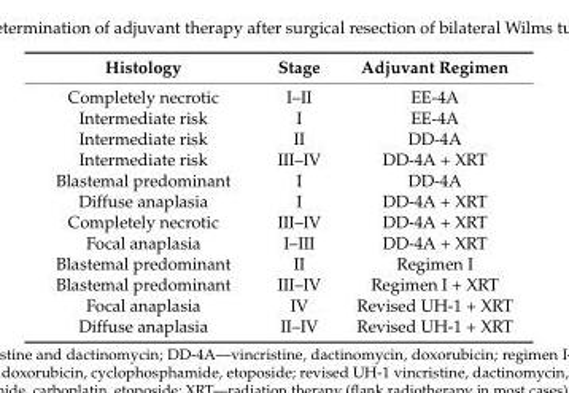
<table><thead><tr><td>Histology</td><td>Stage</td><td>Adjuvant Regimen</td></tr></thead><tbody><tr><td>Completely necrotic</td><td>I–II</td><td>EE-4A</td></tr><tr><td>Intermediate risk</td><td>I</td><td>EE-4A</td></tr><tr><td>Intermediate risk</td><td>II</td><td>DD-4A</td></tr><tr><td>Intermediate risk</td><td>III–IV</td><td>DD-4A + XRT</td></tr><tr><td>Blastemal predominant</td><td>I</td><td>DD-4A</td></tr><tr><td>Diffuse anaplasia</td><td>I</td><td>DD-4A + XRT</td></tr><tr><td>Completely necrotic</td><td>III–IV</td><td>DD-4A + XRT</td></tr><tr><td>Focal anaplasia</td><td>I–III</td><td>DD-4A + XRT</td></tr><tr><td>Blastemal predominant</td><td>II</td><td>Regimen I</td></tr><tr><td>Blastemal predominant</td><td>III–IV</td><td>Regimen I + XRT</td></tr><tr><td>Focal anaplasia</td><td>IV</td><td>Revised UH-1 + XRT</td></tr><tr><td>Diffuse anaplasia</td><td>II–IV</td><td>Revised UH-1 + XRT</td></tr></tbody></table>